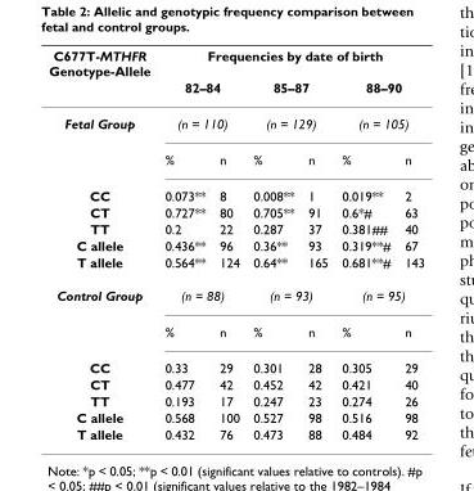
<table><thead><tr><td rowspan="4">C677T-MTHFR Genotype-Allele Fetal Group</td><td colspan="6">Frequencies by date of birth</td></tr><tr><td rowspan="2" colspan="2">82–84 (n = 110)</td><td rowspan="2" colspan="2">85–87 (n = 129)</td><td rowspan="2" colspan="2">88–90 (n = 105)</td></tr><tr></tr><tr><td>%</td><td>n</td><td>%</td><td>n</td><td>%</td><td>n</td></tr></thead><tbody><tr><td>CC</td><td>0.073**</td><td>8</td><td>0.008**</td><td>1</td><td>0.019**</td><td>2</td></tr><tr><td>CT</td><td>0.727**</td><td>80</td><td>0.705**</td><td>91</td><td>0.6*#</td><td>63</td></tr><tr><td>TT</td><td>0.2</td><td>22</td><td>0.287</td><td>37</td><td>0.381##</td><td>40</td></tr><tr><td>C allele</td><td>0.436**</td><td>96</td><td>0.36**</td><td>93</td><td>0.319**#</td><td>67</td></tr><tr><td>T allele</td><td>0.564**</td><td>124</td><td>0.64**</td><td>165</td><td>0.681**#</td><td>143</td></tr><tr><td rowspan="2">Control Group</td><td colspan="2">(n = 88)</td><td colspan="2">(n = 93)</td><td colspan="2">(n = 95)</td></tr><tr><td>%</td><td>n</td><td>%</td><td>n</td><td>%</td><td>n</td></tr><tr><td>CC</td><td>0.33</td><td>29</td><td>0.301</td><td>28</td><td>0.305</td><td>29</td></tr><tr><td>CT</td><td>0.477</td><td>42</td><td>0.452</td><td>42</td><td>0.421</td><td>40</td></tr><tr><td>TT</td><td>0.193</td><td>17</td><td>0.247</td><td>23</td><td>0.274</td><td>26</td></tr><tr><td>C allele</td><td>0.568</td><td>100</td><td>0.527</td><td>98</td><td>0.516</td><td>98</td></tr><tr><td>T allele</td><td>0.432</td><td>76</td><td>0.473</td><td>88</td><td>0.484</td><td>92</td></tr></tbody></table>